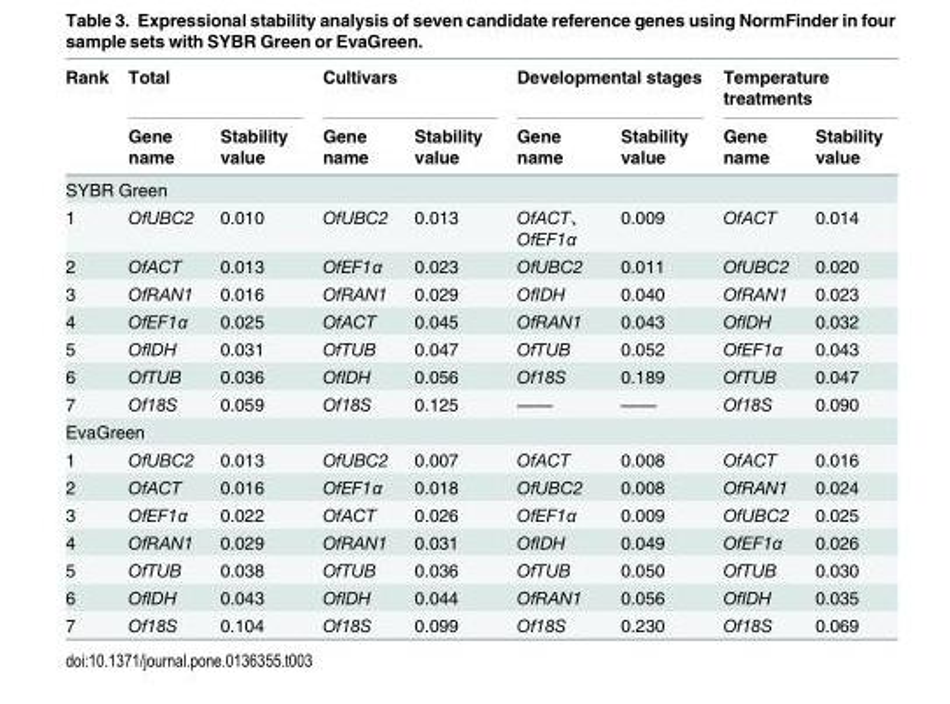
<table><thead><tr><td rowspan="2">Rank</td><td colspan="2">Total</td><td colspan="2">Cultivars</td><td colspan="2">Developmental stages</td><td colspan="2">Temperature treatments</td></tr><tr><td>Gene name</td><td>Stability value</td><td>Gene name</td><td>Stability value</td><td>Gene name</td><td>Stability value</td><td>Gene name</td><td>Stability value</td></tr></thead><tbody><tr><td colspan="9">SYBR Green</td></tr><tr><td>1</td><td>OfUBC2</td><td>0.010</td><td>OfUBC2</td><td>0.013</td><td>OfACT、 OfEF1α</td><td>0.009</td><td>OfACT</td><td>0.014</td></tr><tr><td>2</td><td>OfACT</td><td>0.013</td><td>OfEF1α</td><td>0.023</td><td>OfUBC2</td><td>0.011</td><td>OfUBC2</td><td>0.020</td></tr><tr><td>3</td><td>OfRAN1</td><td>0.016</td><td>OfRAN1</td><td>0.029</td><td>OfIDH</td><td>0.040</td><td>OfRAN1</td><td>0.023</td></tr><tr><td>4</td><td>OfEF1α</td><td>0.025</td><td>OfACT</td><td>0.045</td><td>OfRAN1</td><td>0.043</td><td>OfIDH</td><td>0.032</td></tr><tr><td>5</td><td>OfIDH</td><td>0.031</td><td>OfTUB</td><td>0.047</td><td>OfTUB</td><td>0.052</td><td>OfEF1α</td><td>0.043</td></tr><tr><td>6</td><td>OfTUB</td><td>0.036</td><td>OfIDH</td><td>0.056</td><td>Of18S</td><td>0.189</td><td>OfTUB</td><td>0.047</td></tr><tr><td>7</td><td>Of18S</td><td>0.059</td><td>Of18S</td><td>0.125</td><td>——</td><td>——</td><td>Of18S</td><td>0.090</td></tr><tr><td colspan="9">EvaGreen</td></tr><tr><td>1</td><td>OfUBC2</td><td>0.013</td><td>OfUBC2</td><td>0.007</td><td>OfACT</td><td>0.008</td><td>OfACT</td><td>0.016</td></tr><tr><td>2</td><td>OfACT</td><td>0.016</td><td>OfEF1α</td><td>0.018</td><td>OfUBC2</td><td>0.008</td><td>OfRAN1</td><td>0.024</td></tr><tr><td>3</td><td>OfEF1α</td><td>0.022</td><td>OfACT</td><td>0.026</td><td>OfEF1α</td><td>0.009</td><td>OfUBC2</td><td>0.025</td></tr><tr><td>4</td><td>OfRAN1</td><td>0.029</td><td>OfRAN1</td><td>0.031</td><td>OfIDH</td><td>0.049</td><td>OfEF1α</td><td>0.026</td></tr><tr><td>5</td><td>OfTUB</td><td>0.038</td><td>OfTUB</td><td>0.036</td><td>OfTUB</td><td>0.050</td><td>OfTUB</td><td>0.030</td></tr><tr><td>6</td><td>OfIDH</td><td>0.043</td><td>OfIDH</td><td>0.044</td><td>OfRAN1</td><td>0.056</td><td>OfIDH</td><td>0.035</td></tr><tr><td>7</td><td>Of18S</td><td>0.104</td><td>Of18S</td><td>0.099</td><td>Of18S</td><td>0.230</td><td>Of18S</td><td>0.069</td></tr></tbody></table>